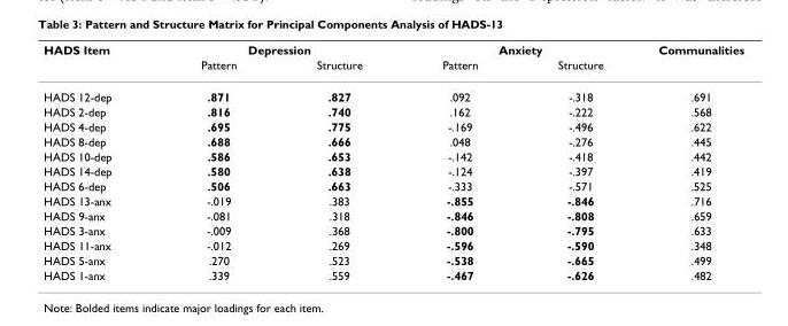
<table><thead><tr><td rowspan="2">HADS Item</td><td colspan="2">Depression</td><td colspan="2">Anxiety</td><td rowspan="2">Communalities</td></tr><tr><td>Pattern</td><td>Structure</td><td>Pattern</td><td>Structure</td></tr></thead><tbody><tr><td>HADS 12-dep</td><td>.871</td><td>.827</td><td>.092</td><td>-.318</td><td>.691</td></tr><tr><td>HADS 2-dep</td><td>.816</td><td>.740</td><td>.162</td><td>-.222</td><td>.568</td></tr><tr><td>HADS 4-dep</td><td>.695</td><td>.775</td><td>-.169</td><td>-.496</td><td>.622</td></tr><tr><td>HADS 8-dep</td><td>.688</td><td>.666</td><td>.048</td><td>-.276</td><td>.445</td></tr><tr><td>HADS 10-dep</td><td>.586</td><td>.653</td><td>-.142</td><td>-.418</td><td>.442</td></tr><tr><td>HADS 14-dep</td><td>.580</td><td>.638</td><td>-.124</td><td>-.397</td><td>.419</td></tr><tr><td>HADS 6-dep</td><td>.506</td><td>.663</td><td>-.333</td><td>-.571</td><td>.525</td></tr><tr><td>HADS 13-anx</td><td>-.019</td><td>.383</td><td>-.855</td><td>-.846</td><td>.716</td></tr><tr><td>HADS 9-anx</td><td>-.081</td><td>.318</td><td>-.846</td><td>-.808</td><td>.659</td></tr><tr><td>HADS 3-anx</td><td>-.009</td><td>.368</td><td>-.800</td><td>-.795</td><td>.633</td></tr><tr><td>HADS 11-anx</td><td>-.012</td><td>.269</td><td>-.596</td><td>-.590</td><td>.348</td></tr><tr><td>HADS 5-anx</td><td>.270</td><td>.523</td><td>-.538</td><td>-.665</td><td>.499</td></tr><tr><td>HADS 1-anx</td><td>.339</td><td>.559</td><td>-.467</td><td>-.626</td><td>.482</td></tr></tbody></table>